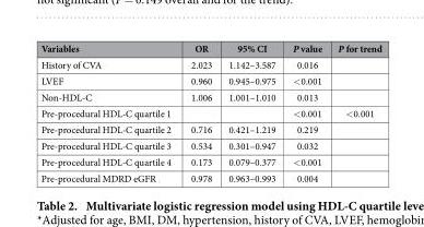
<table><thead><tr><td>Variables</td><td>OR</td><td>95% CI</td><td>P value</td><td>P for trend</td></tr></thead><tbody><tr><td>History of CVA</td><td>2.023</td><td>1.142–3.587</td><td>0.016</td><td></td></tr><tr><td>LVEF</td><td>0.960</td><td>0.945–0.975</td><td>&lt; 0.001</td><td></td></tr><tr><td>Non-HDL-C</td><td>1.006</td><td>1.001–1.010</td><td>0.013</td><td></td></tr><tr><td>Pre-procedural HDL-C quartile 1</td><td></td><td></td><td>&lt; 0.001</td><td>&lt; 0.001</td></tr><tr><td>Pre-procedural HDL-C quartile 2</td><td>0.716</td><td>0.421–1.219</td><td>0.219</td><td></td></tr><tr><td>Pre-procedural HDL-C quartile 3</td><td>0.534</td><td>0.301–0.947</td><td>0.032</td><td></td></tr><tr><td>Pre-procedural HDL-C quartile 4</td><td>0.173</td><td>0.079–0.377</td><td>&lt; 0.001</td><td></td></tr><tr><td>Pre-procedural MDRD eGFR</td><td>0.978</td><td>0.963–0.993</td><td>0.004</td><td></td></tr></tbody></table>